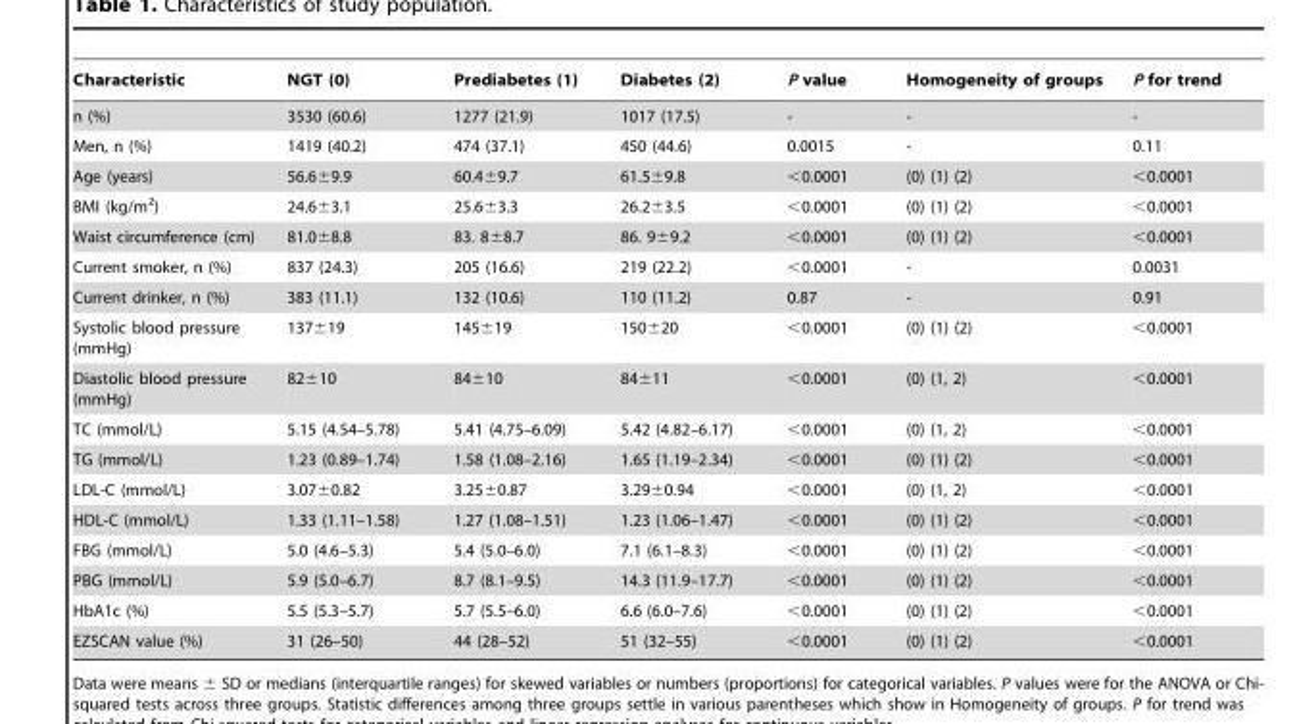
<table><thead><tr><td>Characteristic</td><td>NGT (0)</td><td>Prediabetes (1)</td><td>Diabetes (2)</td><td>P value</td><td>Homogeneity of groups</td><td>P for trend</td></tr></thead><tbody><tr><td>n (%)</td><td>3530 (60.6)</td><td>1277 (21.9)</td><td>1017 (17.5)</td><td>-</td><td>-</td><td>-</td></tr><tr><td>Men, n (%)</td><td>1419 (40.2)</td><td>474 (37.1)</td><td>450 (44.6)</td><td>0.0015</td><td>-</td><td>0.11</td></tr><tr><td>Age (years)</td><td>56.6±9.9</td><td>60.4±9.7</td><td>61.5±9.8</td><td>&lt;0.0001</td><td>(0) (1) (2)</td><td>&lt;0.0001</td></tr><tr><td>BMI (kg/m<sup>2</sup>)</td><td>24.6±3.1</td><td>25.6±3.3</td><td>26.2±3.5</td><td>&lt;0.0001</td><td>(0) (1) (2)</td><td>&lt;0.0001</td></tr><tr><td>Waist circumference (cm)</td><td>81.0±8.8</td><td>83. 8±8.7</td><td>86. 9±9.2</td><td>&lt;0.0001</td><td>(0) (1) (2)</td><td>&lt;0.0001</td></tr><tr><td>Current smoker, n (%)</td><td>837 (24.3)</td><td>205 (16.6)</td><td>219 (22.2)</td><td>&lt;0.0001</td><td>-</td><td>0.0031</td></tr><tr><td>Current drinker, n (%)</td><td>383 (11.1)</td><td>132 (10.6)</td><td>110 (11.2)</td><td>0.87</td><td>-</td><td>0.91</td></tr><tr><td>Systolic blood pressure (mmHg)</td><td>137±19</td><td>145±19</td><td>150±20</td><td>&lt;0.0001</td><td>(0) (1) (2)</td><td>&lt;0.0001</td></tr><tr><td>Diastolic blood pressure (mmHg)</td><td>82±10</td><td>84±10</td><td>84±11</td><td>&lt;0.0001</td><td>(0) (1, 2)</td><td>&lt;0.0001</td></tr><tr><td>TC (mmol/L)</td><td>5.15 (4.54–5.78)</td><td>5.41 (4.75–6.09)</td><td>5.42 (4.82–6.17)</td><td>&lt;0.0001</td><td>(0) (1, 2)</td><td>&lt;0.0001</td></tr><tr><td>TG (mmol/L)</td><td>1.23 (0.89–1.74)</td><td>1.58 (1.08–2.16)</td><td>1.65 (1.19–2.34)</td><td>&lt;0.0001</td><td>(0) (1) (2)</td><td>&lt;0.0001</td></tr><tr><td>LDL-C (mmol/L)</td><td>3.07±0.82</td><td>3.25±0.87</td><td>3.29±0.94</td><td>&lt;0.0001</td><td>(0) (1, 2)</td><td>&lt;0.0001</td></tr><tr><td>HDL-C (mmol/L)</td><td>1.33 (1.11–1.58)</td><td>1.27 (1.08–1.51)</td><td>1.23 (1.06–1.47)</td><td>&lt;0.0001</td><td>(0) (1) (2)</td><td>&lt;0.0001</td></tr><tr><td>FBG (mmol/L)</td><td>5.0 (4.6–5.3)</td><td>5.4 (5.0–6.0)</td><td>7.1 (6.1–8.3)</td><td>&lt;0.0001</td><td>(0) (1) (2)</td><td>&lt;0.0001</td></tr><tr><td>PBG (mmol/L)</td><td>5.9 (5.0–6.7)</td><td>8.7 (8.1–9.5)</td><td>14.3 (11.9–17.7)</td><td>&lt;0.0001</td><td>(0) (1) (2)</td><td>&lt;0.0001</td></tr><tr><td>HbA1c (%)</td><td>5.5 (5.3–5.7)</td><td>5.7 (5.5–6.0)</td><td>6.6 (6.0–7.6)</td><td>&lt;0.0001</td><td>(0) (1) (2)</td><td>&lt;0.0001</td></tr><tr><td>EZSCAN value (%)</td><td>31 (26–50)</td><td>44 (28–52)</td><td>51 (32–55)</td><td>&lt;0.0001</td><td>(0) (1) (2)</td><td>&lt;0.0001</td></tr></tbody></table>